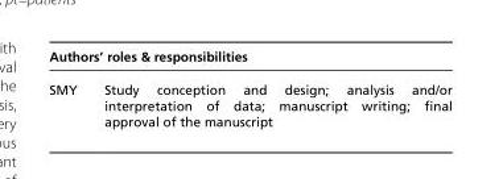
<table><thead><tr><td colspan="2">Authors’ roles &amp; responsibilities</td></tr><tr><td>SMY</td><td>Study conception and design; analysis and/or interpretation of data; manuscript writing; final approval of the manuscript</td></tr></thead><tbody></tbody></table>